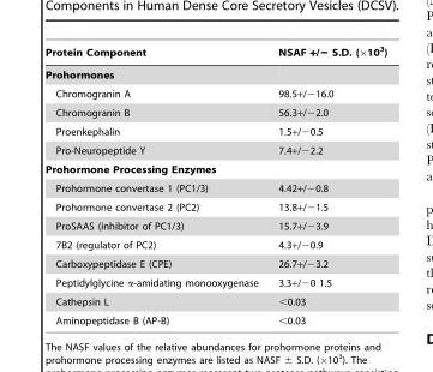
<table><thead><tr><td>Protein Component</td><td>NSAF +/− S.D. (×10<sup>3</sup>)</td></tr></thead><tbody><tr><td colspan="2">Prohormones</td></tr><tr><td>Chromogranin A</td><td>98.5+/−16.0</td></tr><tr><td>Chromogranin B</td><td>56.3+/−2.0</td></tr><tr><td>Proenkephalin</td><td>1.5+/−0.5</td></tr><tr><td>Pro-Neuropeptide Y</td><td>7.4+/−2.2</td></tr><tr><td colspan="2">Prohormone Processing Enzymes</td></tr><tr><td>Prohormone convertase 1 (PC1/3)</td><td>4.42+/−0.8</td></tr><tr><td>Prohormone convertase 2 (PC2)</td><td>13.8+/−1.5</td></tr><tr><td>ProSAAS (inhibitor of PC1/3)</td><td>15.7+/−3.9</td></tr><tr><td>7B2 (regulator of PC2)</td><td>4.3+/−0.9</td></tr><tr><td>Carboxypeptidase E (CPE)</td><td>26.7+/−3.2</td></tr><tr><td>Peptidylglycine α-amidating monooxygenase</td><td>3.3+/−0 1.5</td></tr><tr><td>Cathepsin L</td><td>&lt;0.03</td></tr><tr><td>Aminopeptidase B (AP-B)</td><td>&lt;0.03</td></tr></tbody></table>